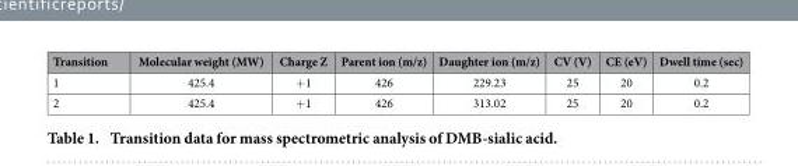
<table><thead><tr><td>Transition</td><td>Molecular weight (MW)</td><td>Charge Z</td><td>Parent ion (m/z)</td><td>Daughter ion (m/z)</td><td>CV (V)</td><td>CE (eV)</td><td>Dwell time (sec)</td></tr></thead><tbody><tr><td>1</td><td>425.4</td><td>+ 1</td><td>426</td><td>229.23</td><td>25</td><td>20</td><td>0.2</td></tr><tr><td>2</td><td>425.4</td><td>+ 1</td><td>426</td><td>313.02</td><td>25</td><td>20</td><td>0.2</td></tr></tbody></table>